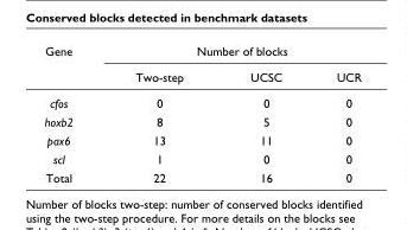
<table><thead><tr><td rowspan="2">Gene</td><td colspan="3">Number of blocks</td></tr><tr><td>Two-step</td><td>UCSC</td><td>UCR</td></tr></thead><tbody><tr><td>cfos</td><td>0</td><td>0</td><td>0</td></tr><tr><td>hoxb2</td><td>8</td><td>5</td><td>0</td></tr><tr><td>pax6</td><td>13</td><td>11</td><td>0</td></tr><tr><td>scl</td><td>1</td><td>0</td><td>0</td></tr><tr><td>Total</td><td>22</td><td>16</td><td>0</td></tr></tbody></table>